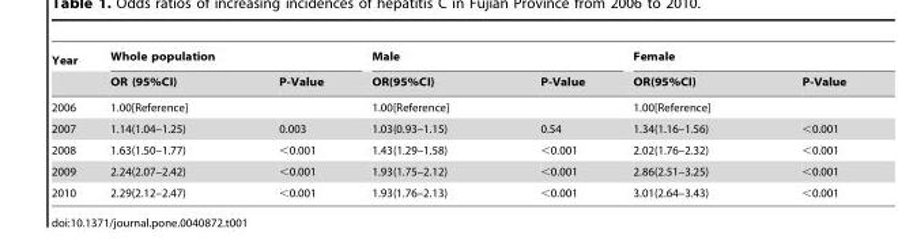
<table><thead><tr><td rowspan="2">Year</td><td colspan="2">Whole population</td><td colspan="2">Male</td><td colspan="2">Female</td></tr><tr><td>OR (95%CI)</td><td>P-Value</td><td>OR(95%CI)</td><td>P-Value</td><td>OR(95%CI)</td><td>P-Value</td></tr></thead><tbody><tr><td>2006</td><td>1.00[Reference]</td><td></td><td>1.00[Reference]</td><td></td><td>1.00[Reference]</td><td></td></tr><tr><td>2007</td><td>1.14(1.04–1.25)</td><td>0.003</td><td>1.03(0.93–1.15)</td><td>0.54</td><td>1.34(1.16–1.56)</td><td>&lt;0.001</td></tr><tr><td>2008</td><td>1.63(1.50–1.77)</td><td>&lt;0.001</td><td>1.43(1.29–1.58)</td><td>&lt;0.001</td><td>2.02(1.76–2.32)</td><td>&lt;0.001</td></tr><tr><td>2009</td><td>2.24(2.07–2.42)</td><td>&lt;0.001</td><td>1.93(1.75–2.12)</td><td>&lt;0.001</td><td>2.86(2.51–3.25)</td><td>&lt;0.001</td></tr><tr><td>2010</td><td>2.29(2.12–2.47)</td><td>&lt;0.001</td><td>1.93(1.76–2.13)</td><td>&lt;0.001</td><td>3.01(2.64–3.43)</td><td>&lt;0.001</td></tr></tbody></table>